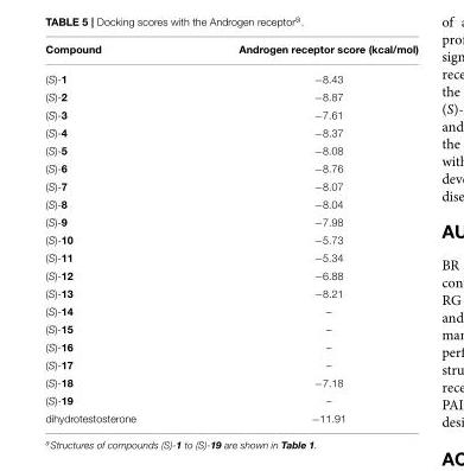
<table><thead><tr><td>Compound</td><td>Androgen receptor score (kcal/mol)</td></tr></thead><tbody><tr><td>(S)-1</td><td>−8.43</td></tr><tr><td>(S)-2</td><td>−8.87</td></tr><tr><td>(S)-3</td><td>−7.61</td></tr><tr><td>(S)-4</td><td>−8.37</td></tr><tr><td>(S)-5</td><td>−8.08</td></tr><tr><td>(S)-6</td><td>−8.76</td></tr><tr><td>(S)-7</td><td>−8.07</td></tr><tr><td>(S)-8</td><td>−8.04</td></tr><tr><td>(S)-9</td><td>−7.98</td></tr><tr><td>(S)-10</td><td>−5.73</td></tr><tr><td>(S)-11</td><td>−5.34</td></tr><tr><td>(S)-12</td><td>−6.88</td></tr><tr><td>(S)-13</td><td>−8.21</td></tr><tr><td>(S)-14</td><td>–</td></tr><tr><td>(S)-15</td><td>–</td></tr><tr><td>(S)-16</td><td>–</td></tr><tr><td>(S)-17</td><td>–</td></tr><tr><td>(S)-18</td><td>−7.18</td></tr><tr><td>(S)-19</td><td>–</td></tr><tr><td>dihydrotestosterone</td><td>−11.91</td></tr></tbody></table>